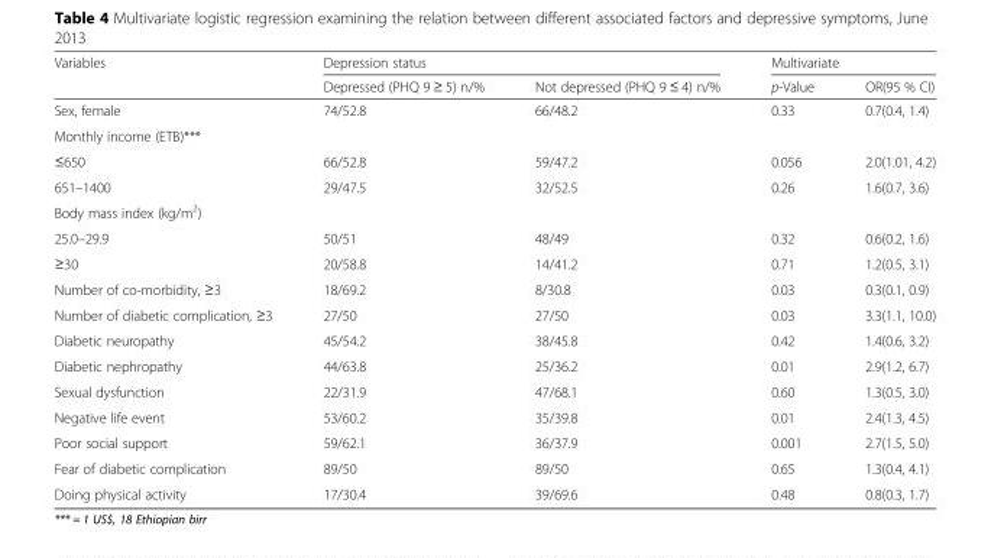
<table><thead><tr><td rowspan="2">Variables</td><td colspan="2">Depression status</td><td colspan="2">Multivariate</td></tr><tr><td>Depressed (PHQ 9 ≥ 5) n/%</td><td>Not depressed (PHQ 9 ≤ 4) n/%</td><td>p-Value</td><td>OR(95 % CI)</td></tr></thead><tbody><tr><td>Sex, female</td><td>74/52.8</td><td>66/48.2</td><td>0.33</td><td>0.7(0.4, 1.4)</td></tr><tr><td colspan="5">Monthly income (ETB)***</td></tr><tr><td>≤650</td><td>66/52.8</td><td>59/47.2</td><td>0.056</td><td>2.0(1.01, 4.2)</td></tr><tr><td>651–1400</td><td>29/47.5</td><td>32/52.5</td><td>0.26</td><td>1.6(0.7, 3.6)</td></tr><tr><td colspan="5">Body mass index (kg/m<sup>2</sup>)</td></tr><tr><td>25.0–29.9</td><td>50/51</td><td>48/49</td><td>0.32</td><td>0.6(0.2, 1.6)</td></tr><tr><td>≥30</td><td>20/58.8</td><td>14/41.2</td><td>0.71</td><td>1.2(0.5, 3.1)</td></tr><tr><td>Number of co-morbidity, ≥3</td><td>18/69.2</td><td>8/30.8</td><td>0.03</td><td>0.3(0.1, 0.9)</td></tr><tr><td>Number of diabetic complication, ≥3</td><td>27/50</td><td>27/50</td><td>0.03</td><td>3.3(1.1, 10.0)</td></tr><tr><td>Diabetic neuropathy</td><td>45/54.2</td><td>38/45.8</td><td>0.42</td><td>1.4(0.6, 3.2)</td></tr><tr><td>Diabetic nephropathy</td><td>44/63.8</td><td>25/36.2</td><td>0.01</td><td>2.9(1.2, 6.7)</td></tr><tr><td>Sexual dysfunction</td><td>22/31.9</td><td>47/68.1</td><td>0.60</td><td>1.3(0.5, 3.0)</td></tr><tr><td>Negative life event</td><td>53/60.2</td><td>35/39.8</td><td>0.01</td><td>2.4(1.3, 4.5)</td></tr><tr><td>Poor social support</td><td>59/62.1</td><td>36/37.9</td><td>0.001</td><td>2.7(1.5, 5.0)</td></tr><tr><td>Fear of diabetic complication</td><td>89/50</td><td>89/50</td><td>0.65</td><td>1.3(0.4, 4.1)</td></tr><tr><td>Doing physical activity</td><td>17/30.4</td><td>39/69.6</td><td>0.48</td><td>0.8(0.3, 1.7)</td></tr></tbody></table>